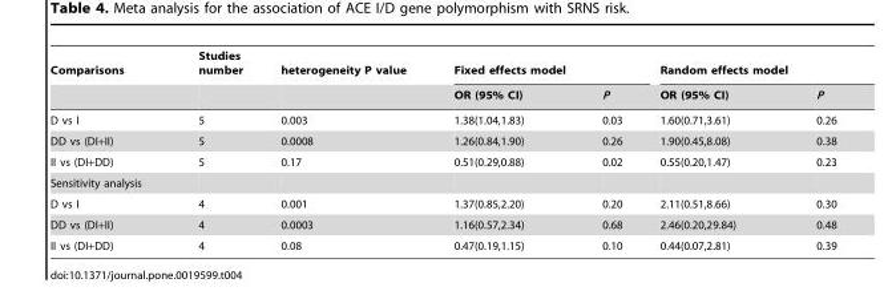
<table><thead><tr><td rowspan="2">Comparisons</td><td rowspan="2">Studies number</td><td rowspan="2">heterogeneity P value</td><td colspan="2">Fixed effects model</td><td colspan="2">Random effects model</td></tr><tr><td>OR (95% CI)</td><td>P</td><td>OR (95% CI)</td><td>P</td></tr></thead><tbody><tr><td>D vs I</td><td>5</td><td>0.003</td><td>1.38(1.04,1.83)</td><td>0.03</td><td>1.60(0.71,3.61)</td><td>0.26</td></tr><tr><td>DD vs (DI+II)</td><td>5</td><td>0.0008</td><td>1.26(0.84,1.90)</td><td>0.26</td><td>1.90(0.45,8.08)</td><td>0.38</td></tr><tr><td>II vs (DI+DD)</td><td>5</td><td>0.17</td><td>0.51(0.29,0.88)</td><td>0.02</td><td>0.55(0.20,1.47)</td><td>0.23</td></tr><tr><td colspan="7">Sensitivity analysis</td></tr><tr><td>D vs I</td><td>4</td><td>0.001</td><td>1.37(0.85,2.20)</td><td>0.20</td><td>2.11(0.51,8.66)</td><td>0.30</td></tr><tr><td>DD vs (DI+II)</td><td>4</td><td>0.0003</td><td>1.16(0.57,2.34)</td><td>0.68</td><td>2.46(0.20,29.84)</td><td>0.48</td></tr><tr><td>II vs (DI+DD)</td><td>4</td><td>0.08</td><td>0.47(0.19,1.15)</td><td>0.10</td><td>0.44(0.07,2.81)</td><td>0.39</td></tr></tbody></table>